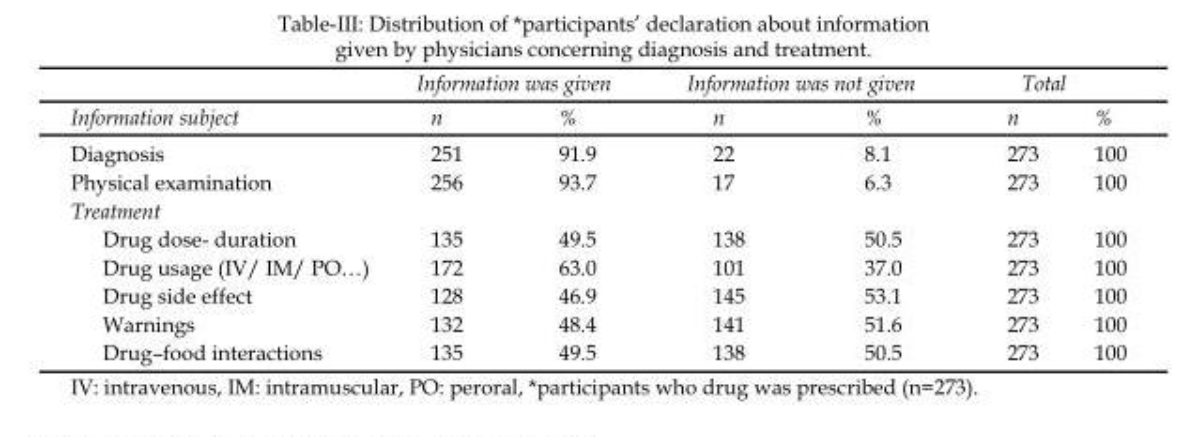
<table><thead><tr><td rowspan="2">Information subject</td><td colspan="2">Information was given</td><td colspan="2">Information was not given</td><td colspan="2">Total</td></tr><tr><td>n</td><td>%</td><td>n</td><td>%</td><td>n</td><td>%</td></tr></thead><tbody><tr><td>Diagnosis</td><td>251</td><td>91.9</td><td>22</td><td>8.1</td><td>273</td><td>100</td></tr><tr><td>Physical examination</td><td>256</td><td>93.7</td><td>17</td><td>6.3</td><td>273</td><td>100</td></tr><tr><td colspan="7">Treatment</td></tr><tr><td>Drug dose- duration</td><td>135</td><td>49.5</td><td>138</td><td>50.5</td><td>273</td><td>100</td></tr><tr><td>Drug usage (IV/ IM/ PO…)</td><td>172</td><td>63.0</td><td>101</td><td>37.0</td><td>273</td><td>100</td></tr><tr><td>Drug side effect</td><td>128</td><td>46.9</td><td>145</td><td>53.1</td><td>273</td><td>100</td></tr><tr><td>Warnings</td><td>132</td><td>48.4</td><td>141</td><td>51.6</td><td>273</td><td>100</td></tr><tr><td>Drug–food interactions</td><td>135</td><td>49.5</td><td>138</td><td>50.5</td><td>273</td><td>100</td></tr></tbody></table>